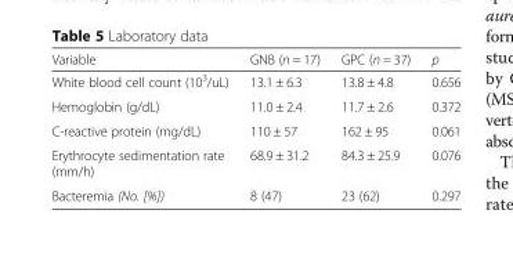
<table><thead><tr><td>Variable</td><td>GNB (n = 17)</td><td>GPC (n = 37)</td><td>p</td></tr></thead><tbody><tr><td>White blood cell count (10<sup>3</sup>/uL)</td><td>13.1 ± 6.3</td><td>13.8 ± 4.8</td><td>0.656</td></tr><tr><td>Hemoglobin (g/dL)</td><td>11.0 ± 2.4</td><td>11.7 ± 2.6</td><td>0.372</td></tr><tr><td>C-reactive protein (mg/dL)</td><td>110 ± 57</td><td>162 ± 95</td><td>0.061</td></tr><tr><td>Erythrocyte sedimentation rate (mm/h)</td><td>68.9 ± 31.2</td><td>84.3 ± 25.9</td><td>0.076</td></tr><tr><td>Bacteremia (No. [%])</td><td>8 (47)</td><td>23 (62)</td><td>0.297</td></tr></tbody></table>